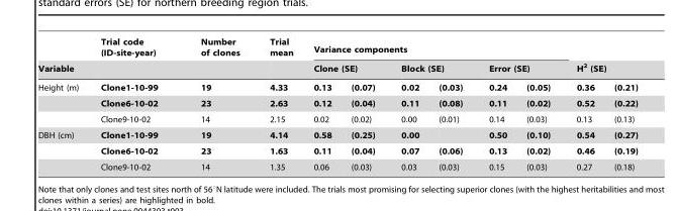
<table><thead><tr><td rowspan="3">Variable Height (m)</td><td rowspan="3">Trial code (ID-site-year) Clone1-10-99</td><td rowspan="3">Number of clones 19</td><td rowspan="3">Trial mean 4.33</td><td colspan="6">Variance components</td><td></td><td></td></tr><tr><td colspan="2">Clone (SE)</td><td colspan="2">Block (SE)</td><td colspan="2">Error (SE)</td><td colspan="2">H<sup>2</sup> (SE)</td></tr><tr><td>0.13</td><td>(0.07)</td><td>0.02</td><td>(0.03)</td><td>0.24</td><td>(0.05)</td><td>0.36</td><td>(0.21)</td></tr></thead><tbody><tr><td></td><td>Clone6-10-02</td><td>23</td><td>2.63</td><td>0.12</td><td>(0.04)</td><td>0.11</td><td>(0.08)</td><td>0.11</td><td>(0.02)</td><td>0.52</td><td>(0.22)</td></tr><tr><td></td><td>Clone9-10-02</td><td>14</td><td>2.15</td><td>0.02</td><td>(0.02)</td><td>0.00</td><td>(0.01)</td><td>0.14</td><td>(0.03)</td><td>0.13</td><td>(0.13)</td></tr><tr><td rowspan="3">DBH (cm)</td><td>Clone1-10-99</td><td>19</td><td>4.14</td><td>0.58</td><td>(0.25)</td><td>0.00</td><td></td><td>0.50</td><td>(0.10)</td><td>0.54</td><td>(0.27)</td></tr><tr><td>Clone6-10-02</td><td>23</td><td>1.63</td><td>0.11</td><td>(0.04)</td><td>0.07</td><td>(0.06)</td><td>0.13</td><td>(0.02)</td><td>0.46</td><td>(0.19)</td></tr><tr><td>Clone9-10-02</td><td>14</td><td>1.35</td><td>0.06</td><td>(0.03)</td><td>0.03</td><td>(0.03)</td><td>0.15</td><td>(0.03)</td><td>0.27</td><td>(0.18)</td></tr></tbody></table>